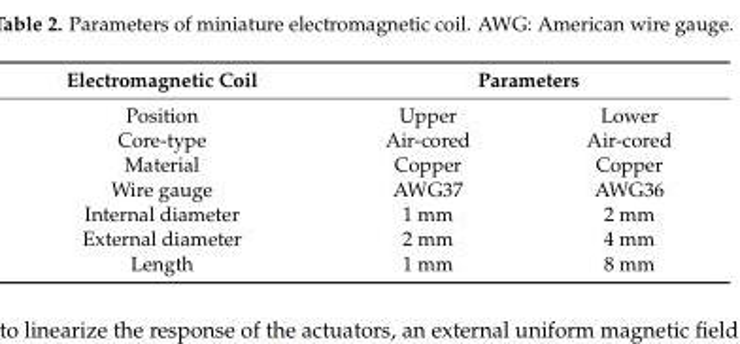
<table><thead><tr><td rowspan="2">Electromagnetic Coil Position</td><td colspan="2">Parameters</td></tr><tr><td>Upper</td><td>Lower</td></tr></thead><tbody><tr><td>Core-type</td><td>Air-cored</td><td>Air-cored</td></tr><tr><td>Material</td><td>Copper</td><td>Copper</td></tr><tr><td>Wire gauge</td><td>AWG37</td><td>AWG36</td></tr><tr><td>Internal diameter</td><td>1 mm</td><td>2 mm</td></tr><tr><td>External diameter</td><td>2 mm</td><td>4 mm</td></tr><tr><td>Length</td><td>1 mm</td><td>8 mm</td></tr></tbody></table>